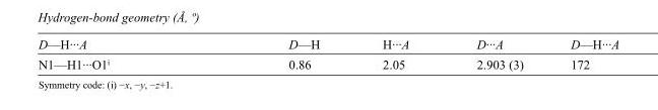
<table><tbody><tr><td>D—H···A</td><td>D—H</td><td>H···A</td><td>D···A</td><td>D—H···A</td></tr><tr><td>N1—H1···O1<sup>i</sup></td><td>0.86</td><td>2.05</td><td>2.903 (3)</td><td>172</td></tr></tbody></table>